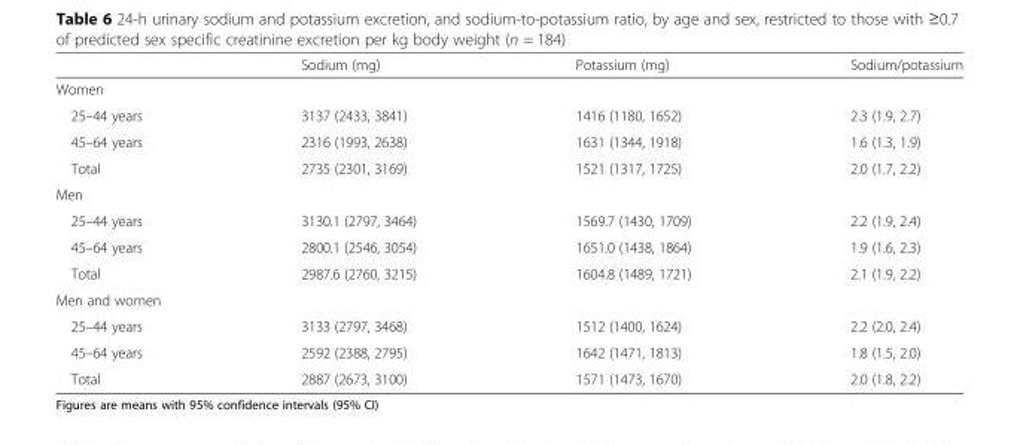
<table><thead><tr><td></td><td>Sodium (mg)</td><td>Potassium (mg)</td><td>Sodium/potassium</td></tr></thead><tbody><tr><td colspan="4">Women</td></tr><tr><td>25–44 years</td><td>3137 (2433, 3841)</td><td>1416 (1180, 1652)</td><td>2.3 (1.9, 2.7)</td></tr><tr><td>45–64 years</td><td>2316 (1993, 2638)</td><td>1631 (1344, 1918)</td><td>1.6 (1.3, 1.9)</td></tr><tr><td>Total</td><td>2735 (2301, 3169)</td><td>1521 (1317, 1725)</td><td>2.0 (1.7, 2.2)</td></tr><tr><td colspan="4">Men</td></tr><tr><td>25–44 years</td><td>3130.1 (2797, 3464)</td><td>1569.7 (1430, 1709)</td><td>2.2 (1.9, 2.4)</td></tr><tr><td>45–64 years</td><td>2800.1 (2546, 3054)</td><td>1651.0 (1438, 1864)</td><td>1.9 (1.6, 2.3)</td></tr><tr><td>Total</td><td>2987.6 (2760, 3215)</td><td>1604.8 (1489, 1721)</td><td>2.1 (1.9, 2.2)</td></tr><tr><td colspan="4">Men and women</td></tr><tr><td>25–44 years</td><td>3133 (2797, 3468)</td><td>1512 (1400, 1624)</td><td>2.2 (2.0, 2.4)</td></tr><tr><td>45–64 years</td><td>2592 (2388, 2795)</td><td>1642 (1471, 1813)</td><td>1.8 (1.5, 2.0)</td></tr><tr><td>Total</td><td>2887 (2673, 3100)</td><td>1571 (1473, 1670)</td><td>2.0 (1.8, 2.2)</td></tr></tbody></table>